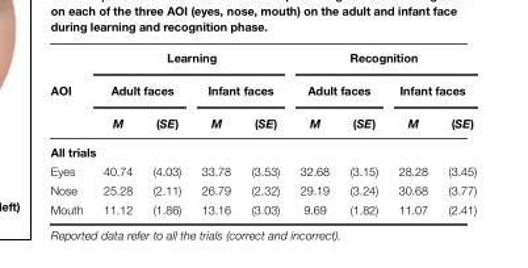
<table><thead><tr><td rowspan="3">AOI</td><td colspan="4">Learning</td><td colspan="4">Recognition</td></tr><tr><td colspan="2">Adult faces</td><td colspan="2">Infant faces</td><td colspan="2">Adult faces</td><td colspan="2">Infant faces</td></tr><tr><td>M</td><td>(SE)</td><td>M</td><td>(SE)</td><td>M</td><td>(SE)</td><td>M</td><td>(SE)</td></tr></thead><tbody><tr><td colspan="9">All trials</td></tr><tr><td>Eyes</td><td>40.74</td><td>(4.03)</td><td>33.78</td><td>(3.53)</td><td>32.68</td><td>(3.15)</td><td>28.28</td><td>(3.45)</td></tr><tr><td>Nose</td><td>25.28</td><td>(2.11)</td><td>26.79</td><td>(2.32)</td><td>29.19</td><td>(3.24)</td><td>30.68</td><td>(3.77)</td></tr><tr><td>Mouth</td><td>11.12</td><td>(1.86)</td><td>13.16</td><td>(3.03)</td><td>9.69</td><td>(1.82)</td><td>11.07</td><td>(2.41)</td></tr></tbody></table>